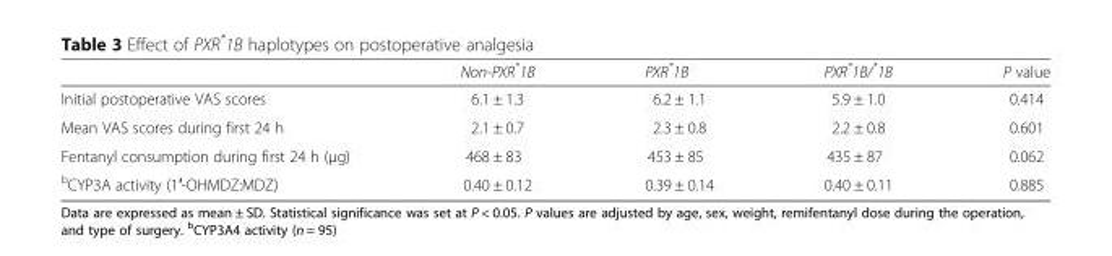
<table><thead><tr><td></td><td>Non-PXR*1B</td><td>PXR*1B</td><td>PXR*1B/*1B</td><td>P value</td></tr></thead><tbody><tr><td>Initial postoperative VAS scores</td><td>6.1 ± 1.3</td><td>6.2 ± 1.1</td><td>5.9 ± 1.0</td><td>0.414</td></tr><tr><td>Mean VAS scores during first 24 h</td><td>2.1 ± 0.7</td><td>2.3 ± 0.8</td><td>2.2 ± 0.8</td><td>0.601</td></tr><tr><td>Fentanyl consumption during first 24 h (μg)</td><td>468 ± 83</td><td>453 ± 85</td><td>435 ± 87</td><td>0.062</td></tr><tr><td><sup>b</sup>CYP3A activity (1′-OHMDZ:MDZ)</td><td>0.40 ± 0.12</td><td>0.39 ± 0.14</td><td>0.40 ± 0.11</td><td>0.885</td></tr></tbody></table>